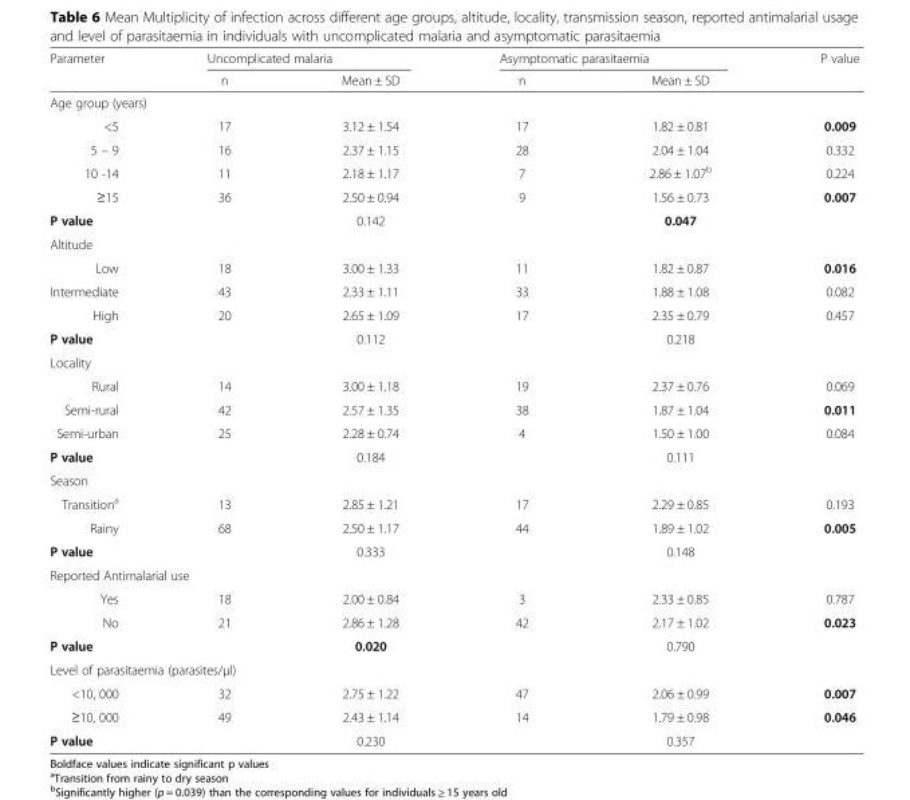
<table><thead><tr><td rowspan="2">Parameter</td><td colspan="2">Uncomplicated malaria</td><td colspan="2">Asymptomatic parasitaemia</td><td rowspan="2">P value</td></tr><tr><td>n</td><td>Mean ± SD</td><td>n</td><td>Mean ± SD</td></tr></thead><tbody><tr><td colspan="6">Age group (years)</td></tr><tr><td>&lt;5</td><td>17</td><td>3.12 ± 1.54</td><td>17</td><td>1.82 ± 0.81</td><td>0.009</td></tr><tr><td>5 – 9</td><td>16</td><td>2.37 ± 1.15</td><td>28</td><td>2.04 ± 1.04</td><td>0.332</td></tr><tr><td>10 -14</td><td>11</td><td>2.18 ± 1.17</td><td>7</td><td>2.86 ± 1.07<sup>b</sup></td><td>0.224</td></tr><tr><td>≥15</td><td>36</td><td>2.50 ± 0.94</td><td>9</td><td>1.56 ± 0.73</td><td>0.007</td></tr><tr><td>P value</td><td></td><td>0.142</td><td></td><td>0.047</td><td></td></tr><tr><td colspan="6">Altitude</td></tr><tr><td>Low</td><td>18</td><td>3.00 ± 1.33</td><td>11</td><td>1.82 ± 0.87</td><td>0.016</td></tr><tr><td>Intermediate</td><td>43</td><td>2.33 ± 1.11</td><td>33</td><td>1.88 ± 1.08</td><td>0.082</td></tr><tr><td>High</td><td>20</td><td>2.65 ± 1.09</td><td>17</td><td>2.35 ± 0.79</td><td>0.457</td></tr><tr><td>P value</td><td></td><td>0.112</td><td></td><td>0.218</td><td></td></tr><tr><td colspan="6">Locality</td></tr><tr><td>Rural</td><td>14</td><td>3.00 ± 1.18</td><td>19</td><td>2.37 ± 0.76</td><td>0.069</td></tr><tr><td>Semi-rural</td><td>42</td><td>2.57 ± 1.35</td><td>38</td><td>1.87 ± 1.04</td><td>0.011</td></tr><tr><td>Semi-urban</td><td>25</td><td>2.28 ± 0.74</td><td>4</td><td>1.50 ± 1.00</td><td>0.084</td></tr><tr><td>P value</td><td></td><td>0.184</td><td></td><td>0.111</td><td></td></tr><tr><td colspan="6">Season</td></tr><tr><td>Transition<sup>a</sup></td><td>13</td><td>2.85 ± 1.21</td><td>17</td><td>2.29 ± 0.85</td><td>0.193</td></tr><tr><td>Rainy</td><td>68</td><td>2.50 ± 1.17</td><td>44</td><td>1.89 ± 1.02</td><td>0.005</td></tr><tr><td>P value</td><td></td><td>0.333</td><td></td><td>0.148</td><td></td></tr><tr><td colspan="6">Reported Antimalarial use</td></tr><tr><td>Yes</td><td>18</td><td>2.00 ± 0.84</td><td>3</td><td>2.33 ± 0.85</td><td>0.787</td></tr><tr><td>No</td><td>21</td><td>2.86 ± 1.28</td><td>42</td><td>2.17 ± 1.02</td><td>0.023</td></tr><tr><td>P value</td><td></td><td>0.020</td><td></td><td>0.790</td><td></td></tr><tr><td colspan="6">Level of parasitaemia (parasites/μl)</td></tr><tr><td>&lt;10, 000</td><td>32</td><td>2.75 ± 1.22</td><td>47</td><td>2.06 ± 0.99</td><td>0.007</td></tr><tr><td>≥10, 000</td><td>49</td><td>2.43 ± 1.14</td><td>14</td><td>1.79 ± 0.98</td><td>0.046</td></tr><tr><td>P value</td><td></td><td>0.230</td><td></td><td>0.357</td><td></td></tr></tbody></table>